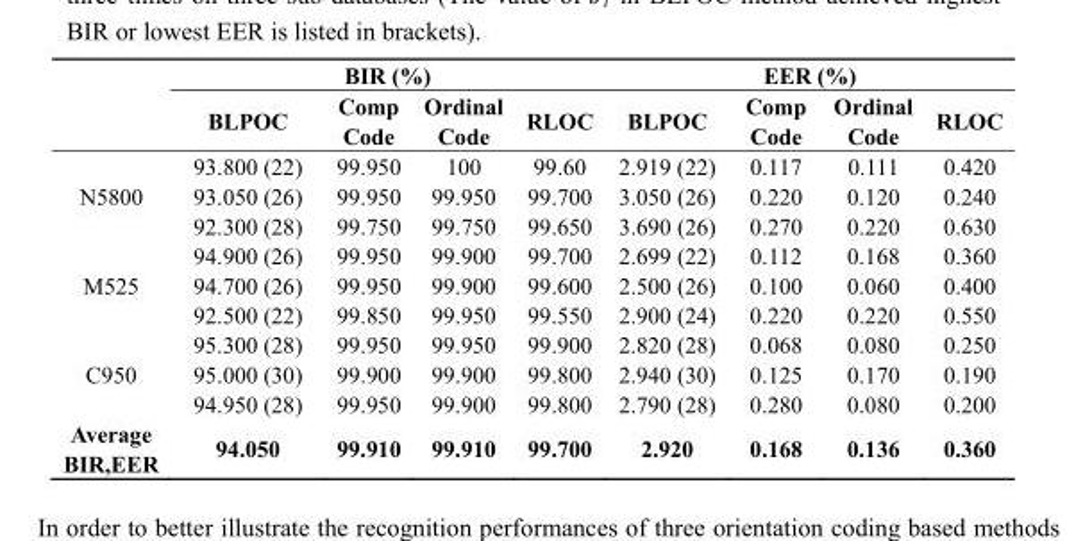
<table><thead><tr><td rowspan="2"></td><td colspan="4">BIR (%)</td><td colspan="4">EER (%)</td></tr><tr><td>BLPOC</td><td>Comp Code</td><td>Ordinal Code</td><td>RLOC</td><td>BLPOC</td><td>Comp Code</td><td>Ordinal Code</td><td>RLOC</td></tr></thead><tbody><tr><td rowspan="3">N5800</td><td>93.800 (22)</td><td>99.950</td><td>100</td><td>99.60</td><td>2.919 (22)</td><td>0.117</td><td>0.111</td><td>0.420</td></tr><tr><td>93.050 (26)</td><td>99.950</td><td>99.950</td><td>99.700</td><td>3.050 (26)</td><td>0.220</td><td>0.120</td><td>0.240</td></tr><tr><td>92.300 (28)</td><td>99.750</td><td>99.750</td><td>99.650</td><td>3.690 (26)</td><td>0.270</td><td>0.220</td><td>0.630</td></tr><tr><td rowspan="3">M525</td><td>94.900 (26)</td><td>99.950</td><td>99.900</td><td>99.700</td><td>2.699 (22)</td><td>0.112</td><td>0.168</td><td>0.360</td></tr><tr><td>94.700 (26)</td><td>99.950</td><td>99.900</td><td>99.600</td><td>2.500 (26)</td><td>0.100</td><td>0.060</td><td>0.400</td></tr><tr><td>92.500 (22)</td><td>99.850</td><td>99.950</td><td>99.550</td><td>2.900 (24)</td><td>0.220</td><td>0.220</td><td>0.550</td></tr><tr><td rowspan="3">C950</td><td>95.300 (28)</td><td>99.950</td><td>99.950</td><td>99.900</td><td>2.820 (28)</td><td>0.068</td><td>0.080</td><td>0.250</td></tr><tr><td>95.000 (30)</td><td>99.900</td><td>99.900</td><td>99.800</td><td>2.940 (30)</td><td>0.125</td><td>0.170</td><td>0.190</td></tr><tr><td>94.950 (28)</td><td>99.950</td><td>99.900</td><td>99.800</td><td>2.790 (28)</td><td>0.280</td><td>0.080</td><td>0.200</td></tr><tr><td>Average BIR,EER</td><td>94.050</td><td>99.910</td><td>99.910</td><td>99.700</td><td>2.920</td><td>0.168</td><td>0.136</td><td>0.360</td></tr></tbody></table>